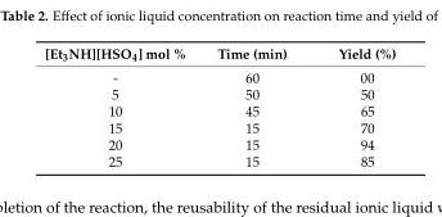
<table><thead><tr><td>[Et3NH][HSO4] mol %</td><td>Time (min)</td><td>Yield (%)</td></tr></thead><tbody><tr><td>-</td><td>60</td><td>00</td></tr><tr><td>5</td><td>50</td><td>50</td></tr><tr><td>10</td><td>45</td><td>65</td></tr><tr><td>15</td><td>15</td><td>70</td></tr><tr><td>20</td><td>15</td><td>94</td></tr><tr><td>25</td><td>15</td><td>85</td></tr></tbody></table>